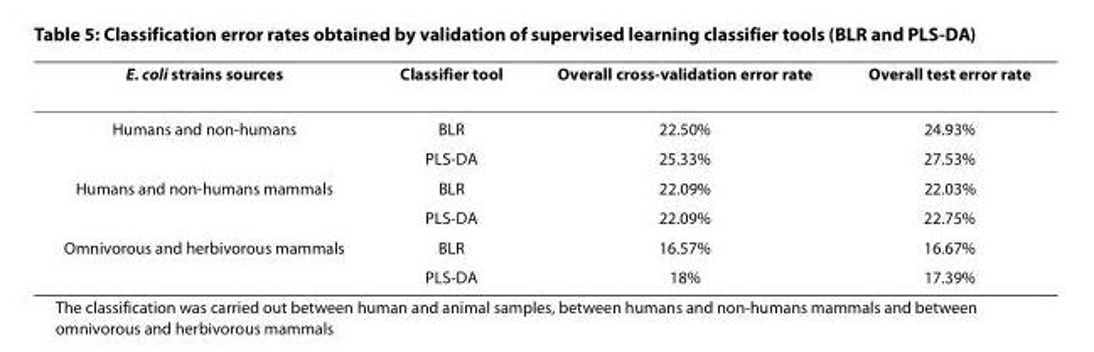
<table><thead><tr><td>E. coli strains sources</td><td>Classifier tool</td><td>Overall cross-validation error rate</td><td>Overall test error rate</td></tr></thead><tbody><tr><td rowspan="2">Humans and non-humans</td><td>BLR</td><td>22.50%</td><td>24.93%</td></tr><tr><td>PLS-DA</td><td>25.33%</td><td>27.53%</td></tr><tr><td rowspan="2">Humans and non-humans mammals</td><td>BLR</td><td>22.09%</td><td>22.03%</td></tr><tr><td>PLS-DA</td><td>22.09%</td><td>22.75%</td></tr><tr><td rowspan="2">Omnivorous and herbivorous mammals</td><td>BLR</td><td>16.57%</td><td>16.67%</td></tr><tr><td>PLS-DA</td><td>18%</td><td>17.39%</td></tr></tbody></table>